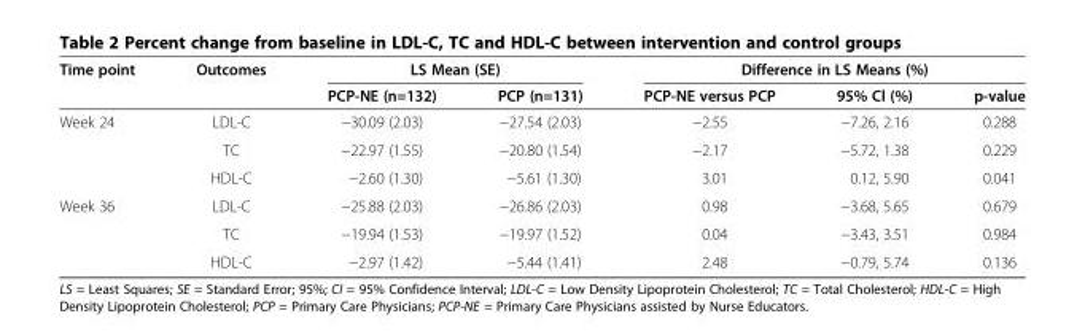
<table><thead><tr><td rowspan="2">Time point</td><td rowspan="2">Outcomes</td><td colspan="2">LS Mean (SE)</td><td colspan="3">Difference in LS Means (%)</td></tr><tr><td>PCP-NE (n=132)</td><td>PCP (n=131)</td><td>PCP-NE versus PCP</td><td>95% Cl (%)</td><td>p-value</td></tr></thead><tbody><tr><td rowspan="3">Week 24</td><td>LDL-C</td><td>−30.09 (2.03)</td><td>−27.54 (2.03)</td><td>−2.55</td><td>−7.26, 2.16</td><td>0.288</td></tr><tr><td>TC</td><td>−22.97 (1.55)</td><td>−20.80 (1.54)</td><td>−2.17</td><td>−5.72, 1.38</td><td>0.229</td></tr><tr><td>HDL-C</td><td>−2.60 (1.30)</td><td>−5.61 (1.30)</td><td>3.01</td><td>0.12, 5.90</td><td>0.041</td></tr><tr><td rowspan="3">Week 36</td><td>LDL-C</td><td>−25.88 (2.03)</td><td>−26.86 (2.03)</td><td>0.98</td><td>−3.68, 5.65</td><td>0.679</td></tr><tr><td>TC</td><td>−19.94 (1.53)</td><td>−19.97 (1.52)</td><td>0.04</td><td>−3.43, 3.51</td><td>0.984</td></tr><tr><td>HDL-C</td><td>−2.97 (1.42)</td><td>−5.44 (1.41)</td><td>2.48</td><td>−0.79, 5.74</td><td>0.136</td></tr></tbody></table>